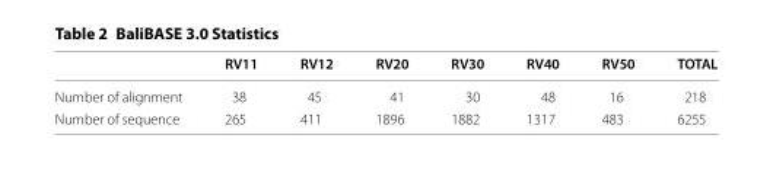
<table><thead><tr><td></td><td>RV11</td><td>RV12</td><td>RV20</td><td>RV30</td><td>RV40</td><td>RV50</td><td>TOTAL</td></tr></thead><tbody><tr><td>Number of alignment</td><td>38</td><td>45</td><td>41</td><td>30</td><td>48</td><td>16</td><td>218</td></tr><tr><td>Number of sequence</td><td>265</td><td>411</td><td>1896</td><td>1882</td><td>1317</td><td>483</td><td>6255</td></tr></tbody></table>